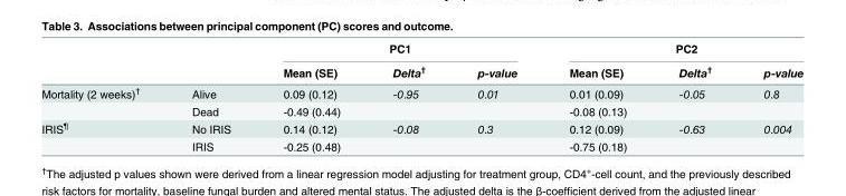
<table><thead><tr><td rowspan="2"></td><td rowspan="2"></td><td colspan="3">PC1</td><td colspan="3">PC2</td></tr><tr><td>Mean (SE)</td><td>Delta<sup>†</sup></td><td>p-value</td><td>Mean (SE)</td><td>Delta<sup>†</sup></td><td>p-value</td></tr></thead><tbody><tr><td rowspan="2">Mortality (2 weeks)<sup>†</sup></td><td>Alive</td><td>0.09 (0.12)</td><td>-0.95</td><td>0.01</td><td>0.01 (0.09)</td><td>-0.05</td><td>0.8</td></tr><tr><td>Dead</td><td>-0.49 (0.44)</td><td></td><td></td><td>-0.08 (0.13)</td><td></td><td></td></tr><tr><td rowspan="2">IRIS<sup>¶</sup></td><td>No IRIS</td><td>0.14 (0.12)</td><td>-0.08</td><td>0.3</td><td>0.12 (0.09)</td><td>-0.63</td><td>0.004</td></tr><tr><td>IRIS</td><td>-0.25 (0.48)</td><td></td><td></td><td>-0.75 (0.18)</td><td></td><td></td></tr></tbody></table>